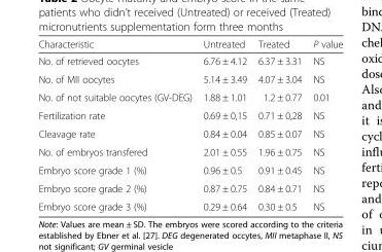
<table><thead><tr><td>Characteristic</td><td>Untreated</td><td>Treated</td><td>P value</td></tr></thead><tbody><tr><td>No. of retrieved oocytes</td><td>6.76 ± 4.12</td><td>6.37 ± 3.31</td><td>NS</td></tr><tr><td>No. of MII oocytes</td><td>5.14 ± 3.49</td><td>4.07 ± 3.04</td><td>NS</td></tr><tr><td>No. of not suitable oocytes (GV-DEG)</td><td>1.88 ± 1.01</td><td>1.2 ± 0.77</td><td>0.01</td></tr><tr><td>Fertilization rate</td><td>0.69 ± 0,15</td><td>0.71 ± 0,28</td><td>NS</td></tr><tr><td>Cleavage rate</td><td>0.84 ± 0.04</td><td>0.85 ± 0.07</td><td>NS</td></tr><tr><td>No. of embryos transfered</td><td>2.01 ± 0.55</td><td>1.96 ± 0.75</td><td>NS</td></tr><tr><td>Embryo score grade 1 (%)</td><td>0.96 ± 0.5</td><td>0.91 ± 0.45</td><td>NS</td></tr><tr><td>Embryo score grade 2 (%)</td><td>0.87 ± 0.75</td><td>0.84 ± 0.71</td><td>NS</td></tr><tr><td>Embryo score grade 3 (%)</td><td>0.29 ± 0.64</td><td>0.30 ± 0.5</td><td>NS</td></tr></tbody></table>